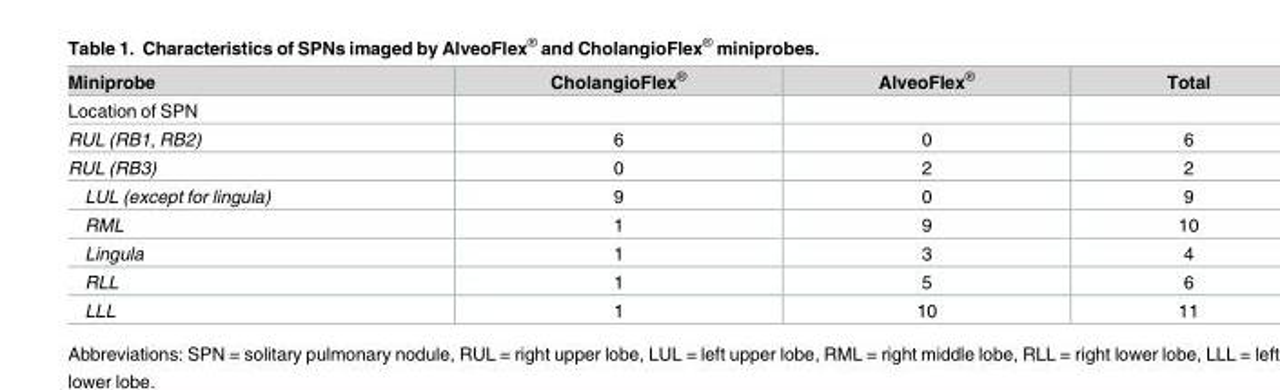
<table><thead><tr><td>Miniprobe</td><td>CholangioFlex<sup>®</sup></td><td>AlveoFlex<sup>®</sup></td><td>Total</td></tr></thead><tbody><tr><td colspan="4">Location of SPN</td></tr><tr><td>RUL (RB1, RB2)</td><td>6</td><td>0</td><td>6</td></tr><tr><td>RUL (RB3)</td><td>0</td><td>2</td><td>2</td></tr><tr><td>LUL (except for lingula)</td><td>9</td><td>0</td><td>9</td></tr><tr><td>RML</td><td>1</td><td>9</td><td>10</td></tr><tr><td>Lingula</td><td>1</td><td>3</td><td>4</td></tr><tr><td>RLL</td><td>1</td><td>5</td><td>6</td></tr><tr><td>LLL</td><td>1</td><td>10</td><td>11</td></tr></tbody></table>